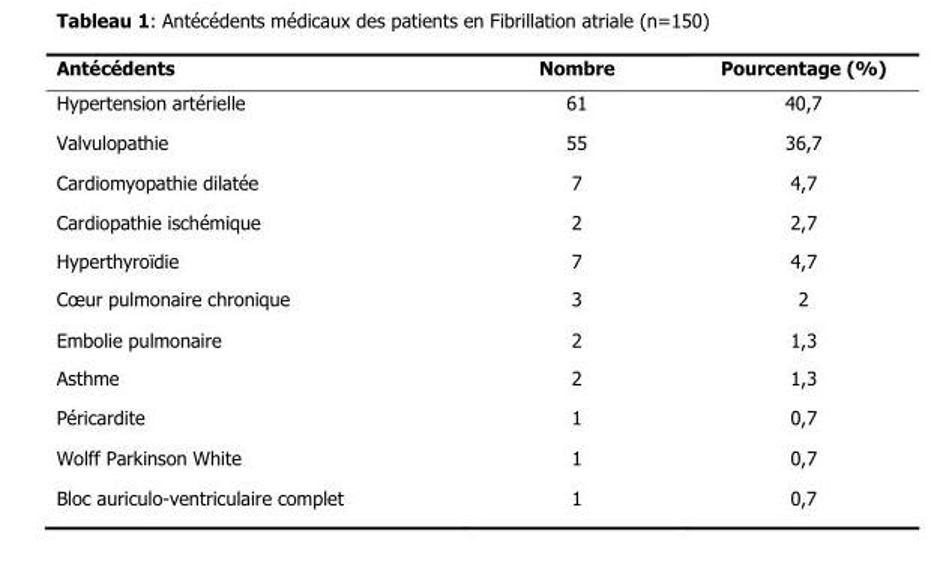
<table><thead><tr><td rowspan="12">Antécédents Hypertension artérielle Valvulopathie Cardiomyopathie dilatée Cardiopathie ischémique Hyperthyroïdie Cœur pulmonaire chronique Embolie pulmonaire Asthme Péricardite Wolff Parkinson White Bloc auriculo-ventriculaire complet</td><td rowspan="12">Nombre 61 55 7 2 7 3 2 2 1 1 1</td><td rowspan="12">Pourcentage (%) 40,7 36,7 4,7 2,7 4,7 2 1,3 1,3 0,7 0,7 0,7</td></tr><tr></tr><tr></tr><tr></tr><tr></tr><tr></tr><tr></tr><tr></tr><tr></tr><tr></tr><tr></tr><tr></tr></thead><tbody></tbody></table>